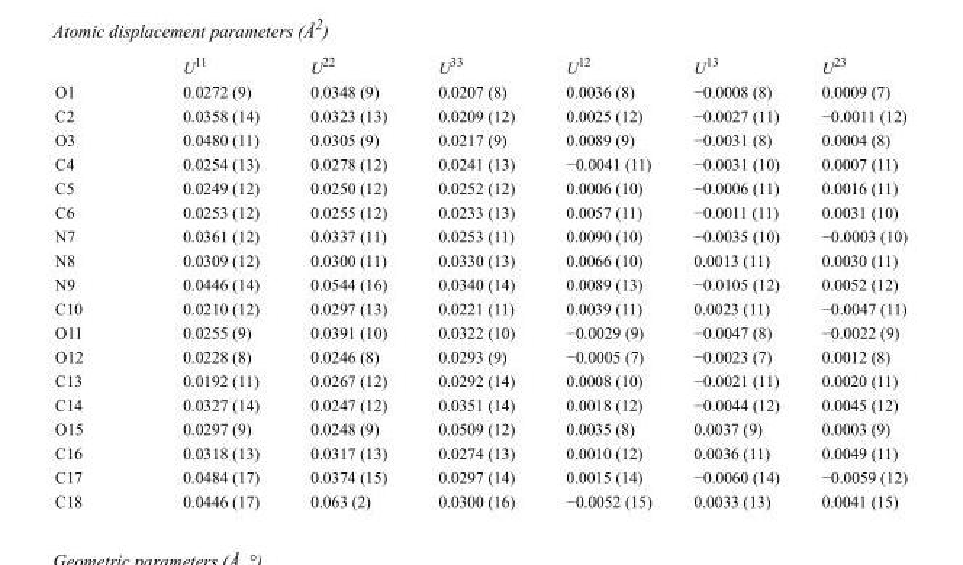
<table><thead><tr><td></td><td>U<sup>11</sup></td><td>U<sup>22</sup></td><td>U<sup>33</sup></td><td>U<sup>12</sup></td><td>U<sup>13</sup></td><td>U<sup>23</sup></td></tr></thead><tbody><tr><td>O1</td><td>0.0272 (9)</td><td>0.0348 (9)</td><td>0.0207 (8)</td><td>0.0036 (8)</td><td>−0.0008 (8)</td><td>0.0009 (7)</td></tr><tr><td>C2</td><td>0.0358 (14)</td><td>0.0323 (13)</td><td>0.0209 (12)</td><td>0.0025 (12)</td><td>−0.0027 (11)</td><td>−0.0011 (12)</td></tr><tr><td>O3</td><td>0.0480 (11)</td><td>0.0305 (9)</td><td>0.0217 (9)</td><td>0.0089 (9)</td><td>−0.0031 (8)</td><td>0.0004 (8)</td></tr><tr><td>C4</td><td>0.0254 (13)</td><td>0.0278 (12)</td><td>0.0241 (13)</td><td>−0.0041 (11)</td><td>−0.0031 (10)</td><td>0.0007 (11)</td></tr><tr><td>C5</td><td>0.0249 (12)</td><td>0.0250 (12)</td><td>0.0252 (12)</td><td>0.0006 (10)</td><td>−0.0006 (11)</td><td>0.0016 (11)</td></tr><tr><td>C6</td><td>0.0253 (12)</td><td>0.0255 (12)</td><td>0.0233 (13)</td><td>0.0057 (11)</td><td>−0.0011 (11)</td><td>0.0031 (10)</td></tr><tr><td>N7</td><td>0.0361 (12)</td><td>0.0337 (11)</td><td>0.0253 (11)</td><td>0.0090 (10)</td><td>−0.0035 (10)</td><td>−0.0003 (10)</td></tr><tr><td>N8</td><td>0.0309 (12)</td><td>0.0300 (11)</td><td>0.0330 (13)</td><td>0.0066 (10)</td><td>0.0013 (11)</td><td>0.0030 (11)</td></tr><tr><td>N9</td><td>0.0446 (14)</td><td>0.0544 (16)</td><td>0.0340 (14)</td><td>0.0089 (13)</td><td>−0.0105 (12)</td><td>0.0052 (12)</td></tr><tr><td>C10</td><td>0.0210 (12)</td><td>0.0297 (13)</td><td>0.0221 (11)</td><td>0.0039 (11)</td><td>0.0023 (11)</td><td>−0.0047 (11)</td></tr><tr><td>O11</td><td>0.0255 (9)</td><td>0.0391 (10)</td><td>0.0322 (10)</td><td>−0.0029 (9)</td><td>−0.0047 (8)</td><td>−0.0022 (9)</td></tr><tr><td>O12</td><td>0.0228 (8)</td><td>0.0246 (8)</td><td>0.0293 (9)</td><td>−0.0005 (7)</td><td>−0.0023 (7)</td><td>0.0012 (8)</td></tr><tr><td>C13</td><td>0.0192 (11)</td><td>0.0267 (12)</td><td>0.0292 (14)</td><td>0.0008 (10)</td><td>−0.0021 (11)</td><td>0.0020 (11)</td></tr><tr><td>C14</td><td>0.0327 (14)</td><td>0.0247 (12)</td><td>0.0351 (14)</td><td>0.0018 (12)</td><td>−0.0044 (12)</td><td>0.0045 (12)</td></tr><tr><td>O15</td><td>0.0297 (9)</td><td>0.0248 (9)</td><td>0.0509 (12)</td><td>0.0035 (8)</td><td>0.0037 (9)</td><td>0.0003 (9)</td></tr><tr><td>C16</td><td>0.0318 (13)</td><td>0.0317 (13)</td><td>0.0274 (13)</td><td>0.0010 (12)</td><td>0.0036 (11)</td><td>0.0049 (11)</td></tr><tr><td>C17</td><td>0.0484 (17)</td><td>0.0374 (15)</td><td>0.0297 (14)</td><td>0.0015 (14)</td><td>−0.0060 (14)</td><td>−0.0059 (12)</td></tr><tr><td>C18</td><td>0.0446 (17)</td><td>0.063 (2)</td><td>0.0300 (16)</td><td>−0.0052 (15)</td><td>0.0033 (13)</td><td>0.0041 (15)</td></tr></tbody></table>